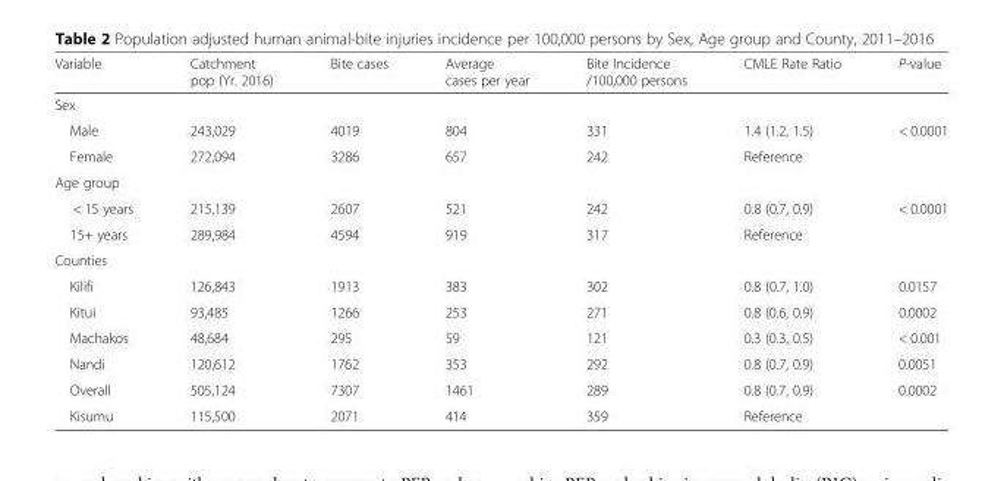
<table><thead><tr><td>Variable</td><td>Catchment pop (Yr. 2016)</td><td>Bite cases</td><td>Average cases per year</td><td>Bite Incidence /100,000 persons</td><td>CMLE Rate Ratio</td><td>P-value</td></tr></thead><tbody><tr><td colspan="7">Sex</td></tr><tr><td>Male</td><td>243,029</td><td>4019</td><td>804</td><td>331</td><td>1.4 (1.2, 1.5)</td><td>&lt; 0.0001</td></tr><tr><td>Female</td><td>272,094</td><td>3286</td><td>657</td><td>242</td><td>Reference</td><td></td></tr><tr><td colspan="7">Age group</td></tr><tr><td>&lt; 15 years</td><td>215,139</td><td>2607</td><td>521</td><td>242</td><td>0.8 (0.7, 0.9)</td><td>&lt; 0.0001</td></tr><tr><td>15+ years</td><td>289,984</td><td>4594</td><td>919</td><td>317</td><td>Reference</td><td></td></tr><tr><td colspan="7">Counties</td></tr><tr><td>Kilifi</td><td>126,843</td><td>1913</td><td>383</td><td>302</td><td>0.8 (0.7, 1.0)</td><td>0.0157</td></tr><tr><td>Kitui</td><td>93,485</td><td>1266</td><td>253</td><td>271</td><td>0.8 (0.6, 0.9)</td><td>0.0002</td></tr><tr><td>Machakos</td><td>48,684</td><td>295</td><td>59</td><td>121</td><td>0.3 (0.3, 0.5)</td><td>&lt; 0.001</td></tr><tr><td>Nandi</td><td>120,612</td><td>1762</td><td>353</td><td>292</td><td>0.8 (0.7, 0.9)</td><td>0.0051</td></tr><tr><td>Overall</td><td>505,124</td><td>7307</td><td>1461</td><td>289</td><td>0.8 (0.7, 0.9)</td><td>0.0002</td></tr><tr><td>Kisumu</td><td>115,500</td><td>2071</td><td>414</td><td>359</td><td>Reference</td><td></td></tr></tbody></table>